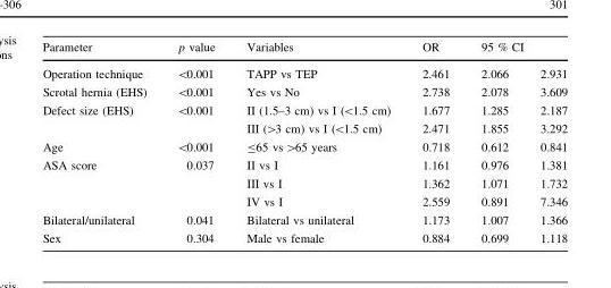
<table><thead><tr><td rowspan="2">Parameter Operation technique</td><td rowspan="2">p value &lt;0.001</td><td rowspan="2">Variables TAPP vs TEP</td><td rowspan="2">OR 2.461</td><td colspan="2">95 % CI</td></tr><tr><td>2.066</td><td>2.931</td></tr></thead><tbody><tr><td>Scrotal hernia (EHS)</td><td>&lt;0.001</td><td>Yes vs No</td><td>2.738</td><td>2.078</td><td>3.609</td></tr><tr><td rowspan="2">Defect size (EHS)</td><td rowspan="2">&lt;0.001</td><td>II (1.5–3 cm) vs I (&lt;1.5 cm)</td><td>1.677</td><td>1.285</td><td>2.187</td></tr><tr><td>III (&gt;3 cm) vs I (&lt;1.5 cm)</td><td>2.471</td><td>1.855</td><td>3.292</td></tr><tr><td>Age</td><td>&lt;0.001</td><td>≤65 vs &gt;65 years</td><td>0.718</td><td>0.612</td><td>0.841</td></tr><tr><td rowspan="3">ASA score</td><td rowspan="3">0.037</td><td>II vs I</td><td>1.161</td><td>0.976</td><td>1.381</td></tr><tr><td>III vs I</td><td>1.362</td><td>1.071</td><td>1.732</td></tr><tr><td>IV vs I</td><td>2.559</td><td>0.891</td><td>7.346</td></tr><tr><td>Bilateral/unilateral</td><td>0.041</td><td>Bilateral vs unilateral</td><td>1.173</td><td>1.007</td><td>1.366</td></tr><tr><td>Sex</td><td>0.304</td><td>Male vs female</td><td>0.884</td><td>0.699</td><td>1.118</td></tr></tbody></table>